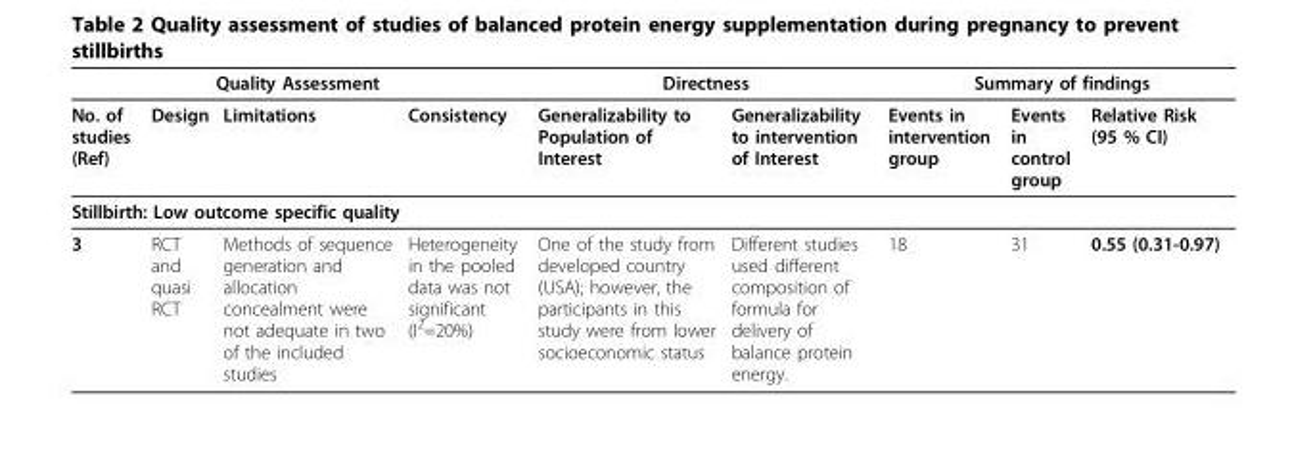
<table><thead><tr><td colspan="4">Quality Assessment</td><td colspan="2">Directness</td><td colspan="3">Summary of findings</td></tr><tr><td>No. of studies (Ref)</td><td>Design</td><td>Limitations</td><td>Consistency</td><td>Generalizability to Population of Interest</td><td>Generalizability to intervention of Interest</td><td>Events in intervention group</td><td>Events in control group</td><td>Relative Risk (95 % CI)</td></tr></thead><tbody><tr><td colspan="9">Stillbirth: Low outcome specific quality</td></tr><tr><td>3</td><td>RCT and quasi RCT</td><td>Methods of sequence generation and allocation concealment were not adequate in two of the included studies</td><td>Heterogeneity in the pooled data was not significant (I2=20%)</td><td>One of the study from developed country (USA); however, the participants in this study were from lower socioeconomic status</td><td>Different studies used different composition of formula for delivery of balance protein energy.</td><td>18</td><td>31</td><td>0.55 (0.31-0.97)</td></tr></tbody></table>